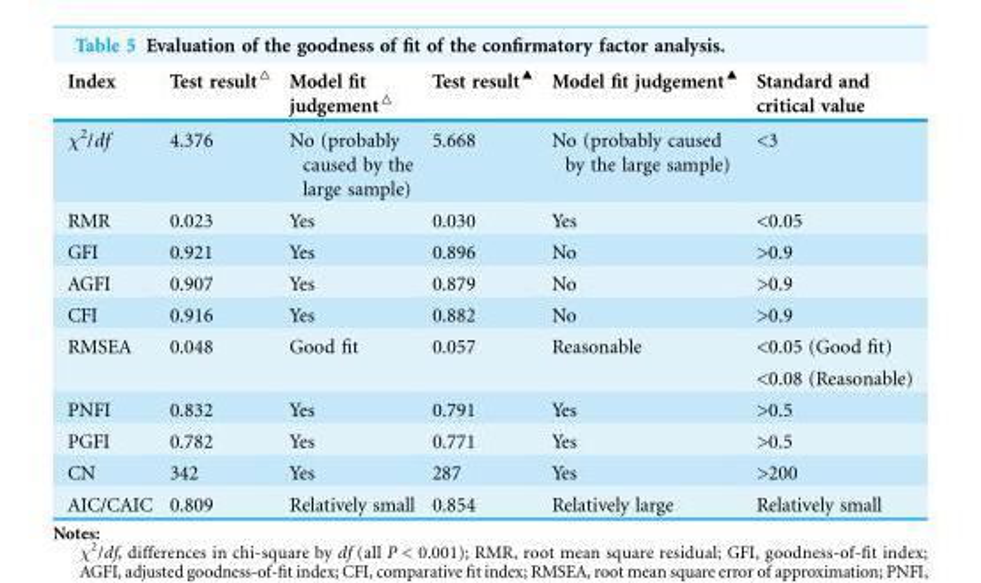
<table><thead><tr><td>Index</td><td>Test result<sup>▵</sup></td><td>Model fit judgement<sup>▵</sup></td><td>Test result<sup>▴</sup></td><td>Model fit judgement<sup>▴</sup></td><td>Standard and critical value</td></tr></thead><tbody><tr><td>χ<sup>2</sup>/df</td><td>4.376</td><td>No (probably caused by the large sample)</td><td>5.668</td><td>No (probably caused by the large sample)</td><td>&lt;3</td></tr><tr><td>RMR</td><td>0.023</td><td>Yes</td><td>0.030</td><td>Yes</td><td>&lt;0.05</td></tr><tr><td>GFI</td><td>0.921</td><td>Yes</td><td>0.896</td><td>No</td><td>&gt;0.9</td></tr><tr><td>AGFI</td><td>0.907</td><td>Yes</td><td>0.879</td><td>No</td><td>&gt;0.9</td></tr><tr><td>CFI</td><td>0.916</td><td>Yes</td><td>0.882</td><td>No</td><td>&gt;0.9</td></tr><tr><td rowspan="2">RMSEA</td><td rowspan="2">0.048</td><td rowspan="2">Good fit</td><td rowspan="2">0.057</td><td rowspan="2">Reasonable</td><td>&lt;0.05 (Good fit)</td></tr><tr><td>&lt;0.08 (Reasonable)</td></tr><tr><td>PNFI</td><td>0.832</td><td>Yes</td><td>0.791</td><td>Yes</td><td>&gt;0.5</td></tr><tr><td>PGFI</td><td>0.782</td><td>Yes</td><td>0.771</td><td>Yes</td><td>&gt;0.5</td></tr><tr><td>CN</td><td>342</td><td>Yes</td><td>287</td><td>Yes</td><td>&gt;200</td></tr><tr><td>AIC/CAIC</td><td>0.809</td><td>Relatively small</td><td>0.854</td><td>Relatively large</td><td>Relatively small</td></tr></tbody></table>